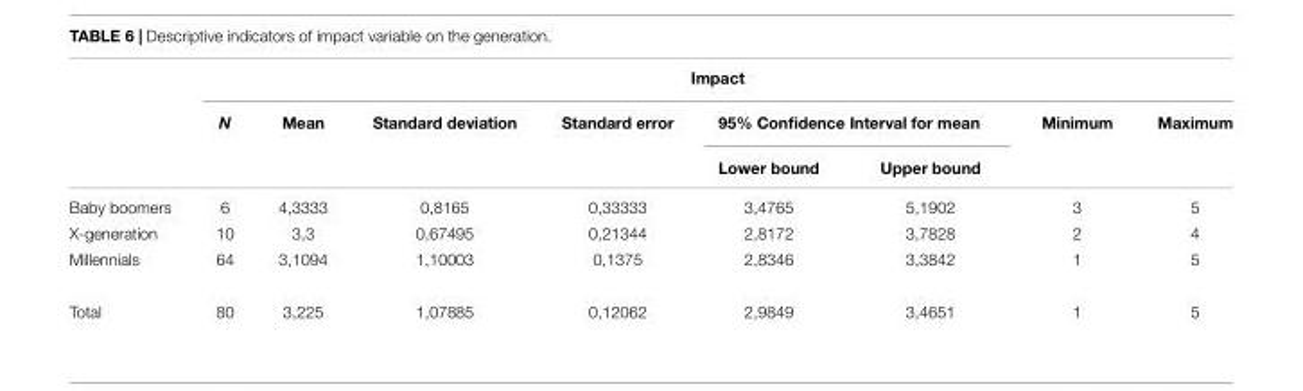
<table><thead><tr><td rowspan="3"></td><td colspan="8">Impact</td></tr><tr><td rowspan="2">N</td><td rowspan="2">Mean</td><td rowspan="2">Standard deviation</td><td rowspan="2">Standard error</td><td colspan="2">95% Confidence Interval for mean</td><td rowspan="2">Minimum</td><td rowspan="2">Maximum</td></tr><tr><td>Lower bound</td><td>Upper bound</td></tr></thead><tbody><tr><td>Baby boomers</td><td>6</td><td>4,3333</td><td>0,8165</td><td>0,33333</td><td>3,4765</td><td>5,1902</td><td>3</td><td>5</td></tr><tr><td>X-generation</td><td>10</td><td>3,3</td><td>0,67495</td><td>0,21344</td><td>2,8172</td><td>3,7828</td><td>2</td><td>4</td></tr><tr><td>Millennials</td><td>64</td><td>3,1094</td><td>1,10003</td><td>0,1375</td><td>2,8346</td><td>3,3842</td><td>1</td><td>5</td></tr><tr><td>Total</td><td>80</td><td>3,225</td><td>1,07885</td><td>0,12062</td><td>2,9849</td><td>3,4651</td><td>1</td><td>5</td></tr></tbody></table>